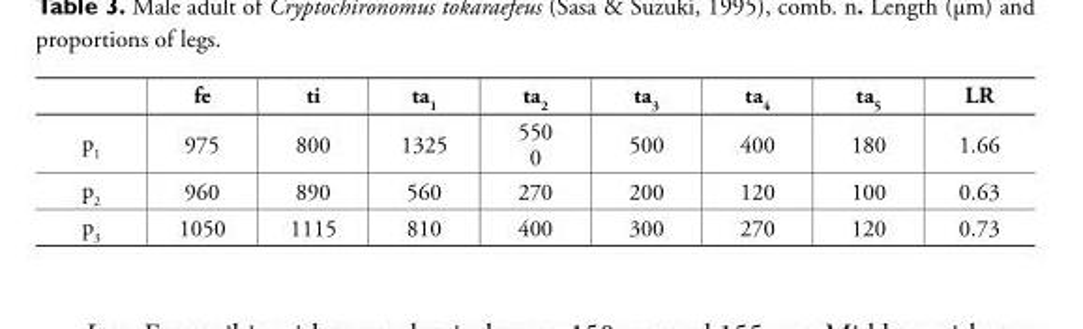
<table><thead><tr><td></td><td>fe</td><td>ti</td><td>ta<sub>1</sub></td><td>ta<sub>2</sub></td><td>ta<sub>3</sub></td><td>ta<sub>4</sub></td><td>ta<sub>5</sub></td><td>LR</td></tr></thead><tbody><tr><td>p<sub>1</sub></td><td>975</td><td>800</td><td>1325</td><td>550 0</td><td>500</td><td>400</td><td>180</td><td>1.66</td></tr><tr><td>p<sub>2</sub></td><td>960</td><td>890</td><td>560</td><td>270</td><td>200</td><td>120</td><td>100</td><td>0.63</td></tr><tr><td>p<sub>3</sub></td><td>1050</td><td>1115</td><td>810</td><td>400</td><td>300</td><td>270</td><td>120</td><td>0.73</td></tr></tbody></table>